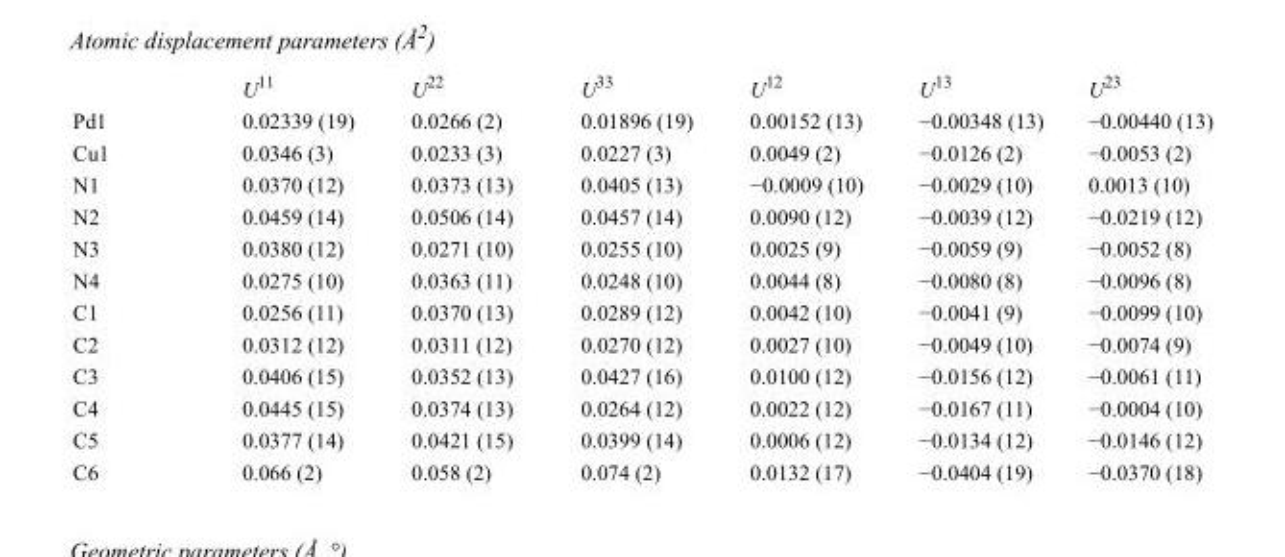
<table><thead><tr><td></td><td>U<sup>11</sup></td><td>U<sup>22</sup></td><td>U<sup>33</sup></td><td>U<sup>12</sup></td><td>U<sup>13</sup></td><td>U<sup>23</sup></td></tr></thead><tbody><tr><td>Pd1</td><td>0.02339 (19)</td><td>0.0266 (2)</td><td>0.01896 (19)</td><td>0.00152 (13)</td><td>−0.00348 (13)</td><td>−0.00440 (13)</td></tr><tr><td>Cu1</td><td>0.0346 (3)</td><td>0.0233 (3)</td><td>0.0227 (3)</td><td>0.0049 (2)</td><td>−0.0126 (2)</td><td>−0.0053 (2)</td></tr><tr><td>N1</td><td>0.0370 (12)</td><td>0.0373 (13)</td><td>0.0405 (13)</td><td>−0.0009 (10)</td><td>−0.0029 (10)</td><td>0.0013 (10)</td></tr><tr><td>N2</td><td>0.0459 (14)</td><td>0.0506 (14)</td><td>0.0457 (14)</td><td>0.0090 (12)</td><td>−0.0039 (12)</td><td>−0.0219 (12)</td></tr><tr><td>N3</td><td>0.0380 (12)</td><td>0.0271 (10)</td><td>0.0255 (10)</td><td>0.0025 (9)</td><td>−0.0059 (9)</td><td>−0.0052 (8)</td></tr><tr><td>N4</td><td>0.0275 (10)</td><td>0.0363 (11)</td><td>0.0248 (10)</td><td>0.0044 (8)</td><td>−0.0080 (8)</td><td>−0.0096 (8)</td></tr><tr><td>C1</td><td>0.0256 (11)</td><td>0.0370 (13)</td><td>0.0289 (12)</td><td>0.0042 (10)</td><td>−0.0041 (9)</td><td>−0.0099 (10)</td></tr><tr><td>C2</td><td>0.0312 (12)</td><td>0.0311 (12)</td><td>0.0270 (12)</td><td>0.0027 (10)</td><td>−0.0049 (10)</td><td>−0.0074 (9)</td></tr><tr><td>C3</td><td>0.0406 (15)</td><td>0.0352 (13)</td><td>0.0427 (16)</td><td>0.0100 (12)</td><td>−0.0156 (12)</td><td>−0.0061 (11)</td></tr><tr><td>C4</td><td>0.0445 (15)</td><td>0.0374 (13)</td><td>0.0264 (12)</td><td>0.0022 (12)</td><td>−0.0167 (11)</td><td>−0.0004 (10)</td></tr><tr><td>C5</td><td>0.0377 (14)</td><td>0.0421 (15)</td><td>0.0399 (14)</td><td>0.0006 (12)</td><td>−0.0134 (12)</td><td>−0.0146 (12)</td></tr><tr><td>C6</td><td>0.066 (2)</td><td>0.058 (2)</td><td>0.074 (2)</td><td>0.0132 (17)</td><td>−0.0404 (19)</td><td>−0.0370 (18)</td></tr></tbody></table>